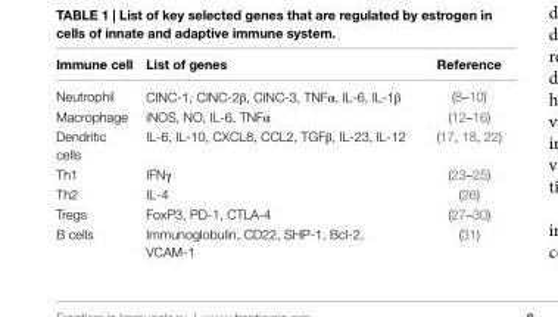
<table><thead><tr><td>immune cell</td><td>List of genes</td><td>Reference</td></tr></thead><tbody><tr><td>Neutrophil</td><td>CINC-1, CINC-2β, CINC-3, TNFα, IL-6, IL-1β</td><td>(8–10)</td></tr><tr><td>Macrophage</td><td>iNOS, NO, IL-6, TNFα</td><td>(12–16)</td></tr><tr><td>Dendritic cells</td><td>IL-6, IL-10, CXCL8, CCL2, TGFβ, IL-23, IL-12</td><td>(17, 18, 22)</td></tr><tr><td>Th1</td><td>IFNγ</td><td>(23–25)</td></tr><tr><td>Th2</td><td>IL-4</td><td>(26)</td></tr><tr><td>Tregs</td><td>FoxP3, PD-1, CTLA-4</td><td>(27–30)</td></tr><tr><td>B cells</td><td>Immunoglobulin, CD22, SHP-1, Bcl-2, VCAM-1</td><td>(31)</td></tr></tbody></table>